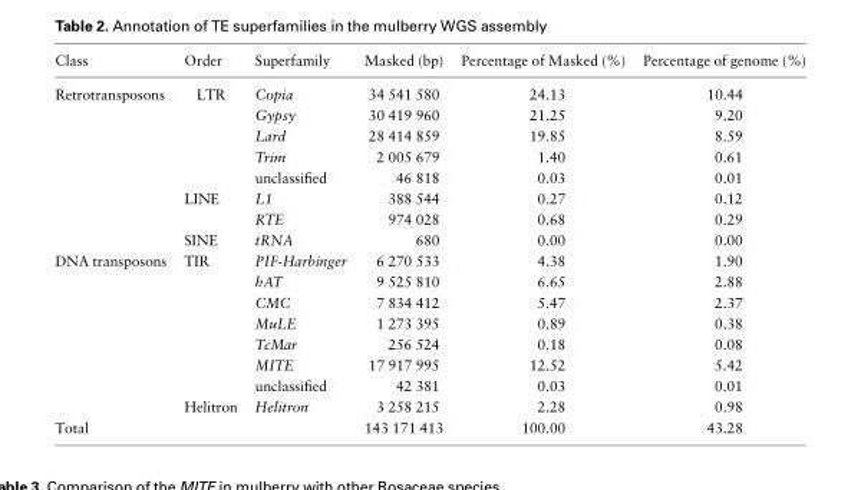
<table><thead><tr><td>Class</td><td>Order</td><td>Superfamily</td><td>Masked (bp)</td><td>Percentage of Masked (%)</td><td>Percentage of genome (%)</td></tr></thead><tbody><tr><td rowspan="8">Retrotransposons</td><td>LTR</td><td>Copia</td><td>34 541 580</td><td>24.13</td><td>10.44</td></tr><tr><td></td><td>Gypsy</td><td>30 419 960</td><td>21.25</td><td>9.20</td></tr><tr><td></td><td>Lard</td><td>28 414 859</td><td>19.85</td><td>8.59</td></tr><tr><td></td><td>Trim</td><td>2 005 679</td><td>1.40</td><td>0.61</td></tr><tr><td></td><td>unclassified</td><td>46 818</td><td>0.03</td><td>0.01</td></tr><tr><td>LINE</td><td>L1</td><td>388 544</td><td>0.27</td><td>0.12</td></tr><tr><td></td><td>RTE</td><td>974 028</td><td>0.68</td><td>0.29</td></tr><tr><td>SINE</td><td>tRNA</td><td>680</td><td>0.00</td><td>0.00</td></tr><tr><td rowspan="8">DNA transposons</td><td>TIR</td><td>PIF-Harbinger</td><td>6 270 533</td><td>4.38</td><td>1.90</td></tr><tr><td></td><td>hAT</td><td>9 525 810</td><td>6.65</td><td>2.88</td></tr><tr><td></td><td>CMC</td><td>7 834 412</td><td>5.47</td><td>2.37</td></tr><tr><td></td><td>MuLE</td><td>1 273 395</td><td>0.89</td><td>0.38</td></tr><tr><td></td><td>TcMar</td><td>256 524</td><td>0.18</td><td>0.08</td></tr><tr><td></td><td>MITE</td><td>17 917 995</td><td>12.52</td><td>5.42</td></tr><tr><td></td><td>unclassified</td><td>42 381</td><td>0.03</td><td>0.01</td></tr><tr><td>Helitron</td><td>Helitron</td><td>3 258 215</td><td>2.28</td><td>0.98</td></tr><tr><td>Total</td><td></td><td></td><td>143 171 413</td><td>100.00</td><td>43.28</td></tr></tbody></table>